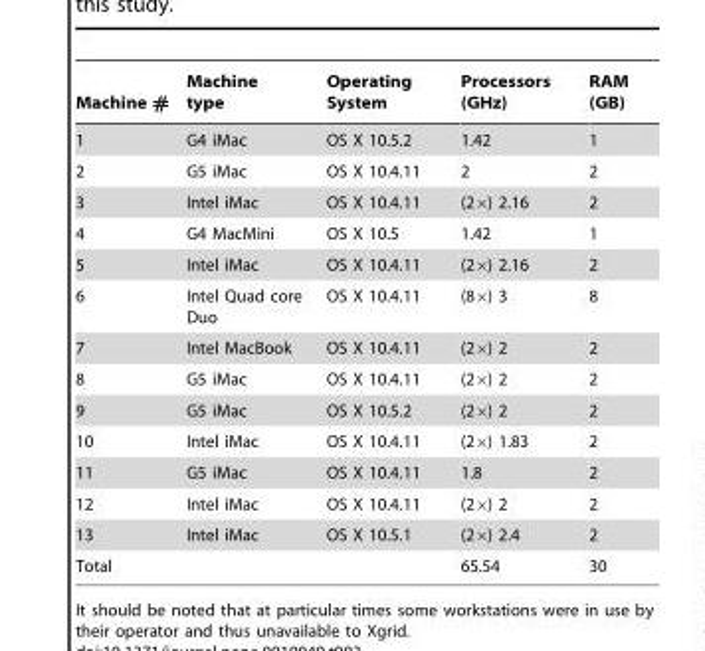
<table><thead><tr><td>Machine #</td><td>Machine type</td><td>Operating System</td><td>Processors (GHz)</td><td>RAM (GB)</td></tr></thead><tbody><tr><td>1</td><td>G4 iMac</td><td>OS X 10.5.2</td><td>1.42</td><td>1</td></tr><tr><td>2</td><td>G5 iMac</td><td>OS X 10.4.11</td><td>2</td><td>2</td></tr><tr><td>3</td><td>Intel iMac</td><td>OS X 10.4.11</td><td>(2×) 2.16</td><td>2</td></tr><tr><td>4</td><td>G4 MacMini</td><td>OS X 10.5</td><td>1.42</td><td>1</td></tr><tr><td>5</td><td>Intel iMac</td><td>OS X 10.4.11</td><td>(2×) 2.16</td><td>2</td></tr><tr><td>6</td><td>Intel Quad core Duo</td><td>OS X 10.4.11</td><td>(8×) 3</td><td>8</td></tr><tr><td>7</td><td>Intel MacBook</td><td>OS X 10.4.11</td><td>(2×) 2</td><td>2</td></tr><tr><td>8</td><td>G5 iMac</td><td>OS X 10.4.11</td><td>(2×) 2</td><td>2</td></tr><tr><td>9</td><td>G5 iMac</td><td>OS X 10.5.2</td><td>(2×) 2</td><td>2</td></tr><tr><td>10</td><td>Intel iMac</td><td>OS X 10.4.11</td><td>(2×) 1.83</td><td>2</td></tr><tr><td>11</td><td>G5 iMac</td><td>OS X 10.4.11</td><td>1.8</td><td>2</td></tr><tr><td>12</td><td>Intel iMac</td><td>OS X 10.4.11</td><td>(2×) 2</td><td>2</td></tr><tr><td>13</td><td>Intel iMac</td><td>OS X 10.5.1</td><td>(2×) 2.4</td><td>2</td></tr><tr><td>Total</td><td></td><td></td><td>65.54</td><td>30</td></tr></tbody></table>